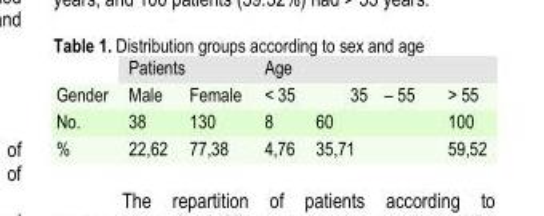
<table><thead><tr><td></td><td>Patients</td><td></td><td>Age</td><td></td><td></td></tr></thead><tbody><tr><td>Gender</td><td>Male</td><td>Female</td><td>&lt; 35</td><td>35 – 55</td><td>&gt; 55</td></tr><tr><td>No.</td><td>38</td><td>130</td><td>8</td><td>60</td><td>100</td></tr><tr><td>%</td><td>22,62</td><td>77,38</td><td>4,76</td><td>35,71</td><td>59,52</td></tr></tbody></table>